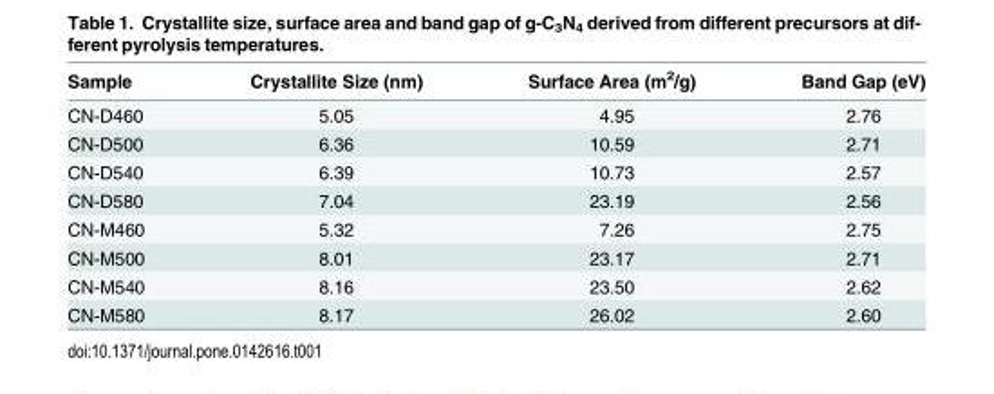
<table><thead><tr><td>Sample</td><td>Crystallite Size (nm)</td><td>Surface Area (m<sup>2</sup>/g)</td><td>Band Gap (eV)</td></tr></thead><tbody><tr><td>CN-D460</td><td>5.05</td><td>4.95</td><td>2.76</td></tr><tr><td>CN-D500</td><td>6.36</td><td>10.59</td><td>2.71</td></tr><tr><td>CN-D540</td><td>6.39</td><td>10.73</td><td>2.57</td></tr><tr><td>CN-D580</td><td>7.04</td><td>23.19</td><td>2.56</td></tr><tr><td>CN-M460</td><td>5.32</td><td>7.26</td><td>2.75</td></tr><tr><td>CN-M500</td><td>8.01</td><td>23.17</td><td>2.71</td></tr><tr><td>CN-M540</td><td>8.16</td><td>23.50</td><td>2.62</td></tr><tr><td>CN-M580</td><td>8.17</td><td>26.02</td><td>2.60</td></tr></tbody></table>